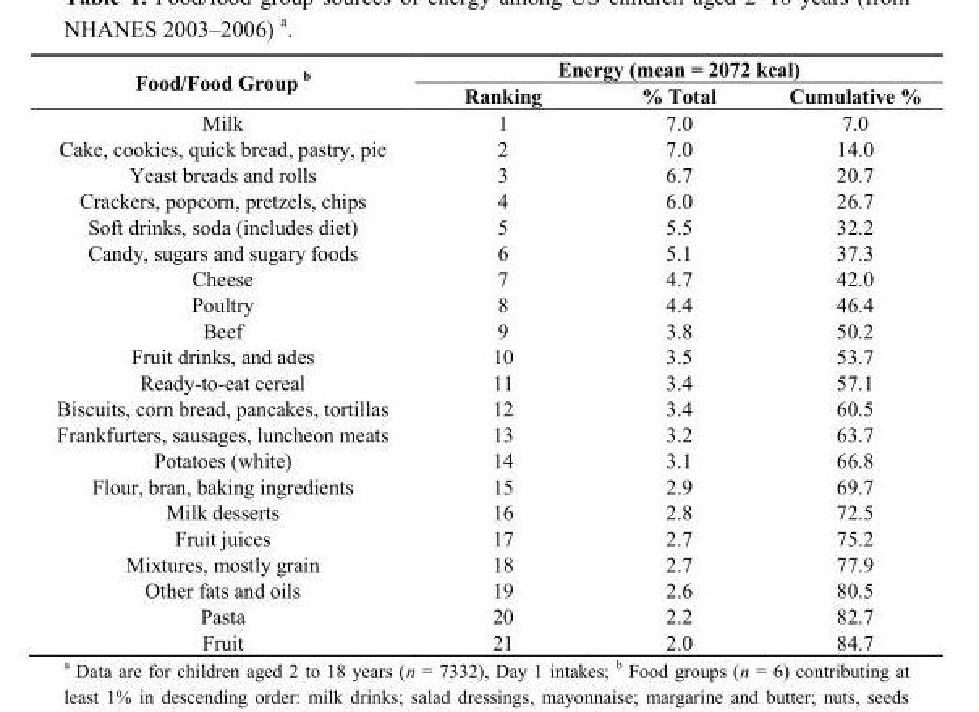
<table><thead><tr><td rowspan="2">Food/Food Group <sup>b</sup></td><td colspan="3">Energy (mean = 2072 kcal)</td></tr><tr><td>Ranking</td><td>% Total</td><td>Cumulative %</td></tr></thead><tbody><tr><td>Milk</td><td>1</td><td>7.0</td><td>7.0</td></tr><tr><td>Cake, cookies, quick bread, pastry, pie</td><td>2</td><td>7.0</td><td>14.0</td></tr><tr><td>Yeast breads and rolls</td><td>3</td><td>6.7</td><td>20.7</td></tr><tr><td>Crackers, popcorn, pretzels, chips</td><td>4</td><td>6.0</td><td>26.7</td></tr><tr><td>Soft drinks, soda (includes diet)</td><td>5</td><td>5.5</td><td>32.2</td></tr><tr><td>Candy, sugars and sugary foods</td><td>6</td><td>5.1</td><td>37.3</td></tr><tr><td>Cheese</td><td>7</td><td>4.7</td><td>42.0</td></tr><tr><td>Poultry</td><td>8</td><td>4.4</td><td>46.4</td></tr><tr><td>Beef</td><td>9</td><td>3.8</td><td>50.2</td></tr><tr><td>Fruit drinks, and ades</td><td>10</td><td>3.5</td><td>53.7</td></tr><tr><td>Ready-to-eat cereal</td><td>11</td><td>3.4</td><td>57.1</td></tr><tr><td>Biscuits, corn bread, pancakes, tortillas</td><td>12</td><td>3.4</td><td>60.5</td></tr><tr><td>Frankfurters, sausages, luncheon meats</td><td>13</td><td>3.2</td><td>63.7</td></tr><tr><td>Potatoes (white)</td><td>14</td><td>3.1</td><td>66.8</td></tr><tr><td>Flour, bran, baking ingredients</td><td>15</td><td>2.9</td><td>69.7</td></tr><tr><td>Milk desserts</td><td>16</td><td>2.8</td><td>72.5</td></tr><tr><td>Fruit juices</td><td>17</td><td>2.7</td><td>75.2</td></tr><tr><td>Mixtures, mostly grain</td><td>18</td><td>2.7</td><td>77.9</td></tr><tr><td>Other fats and oils</td><td>19</td><td>2.6</td><td>80.5</td></tr><tr><td>Pasta</td><td>20</td><td>2.2</td><td>82.7</td></tr><tr><td>Fruit</td><td>21</td><td>2.0</td><td>84.7</td></tr></tbody></table>